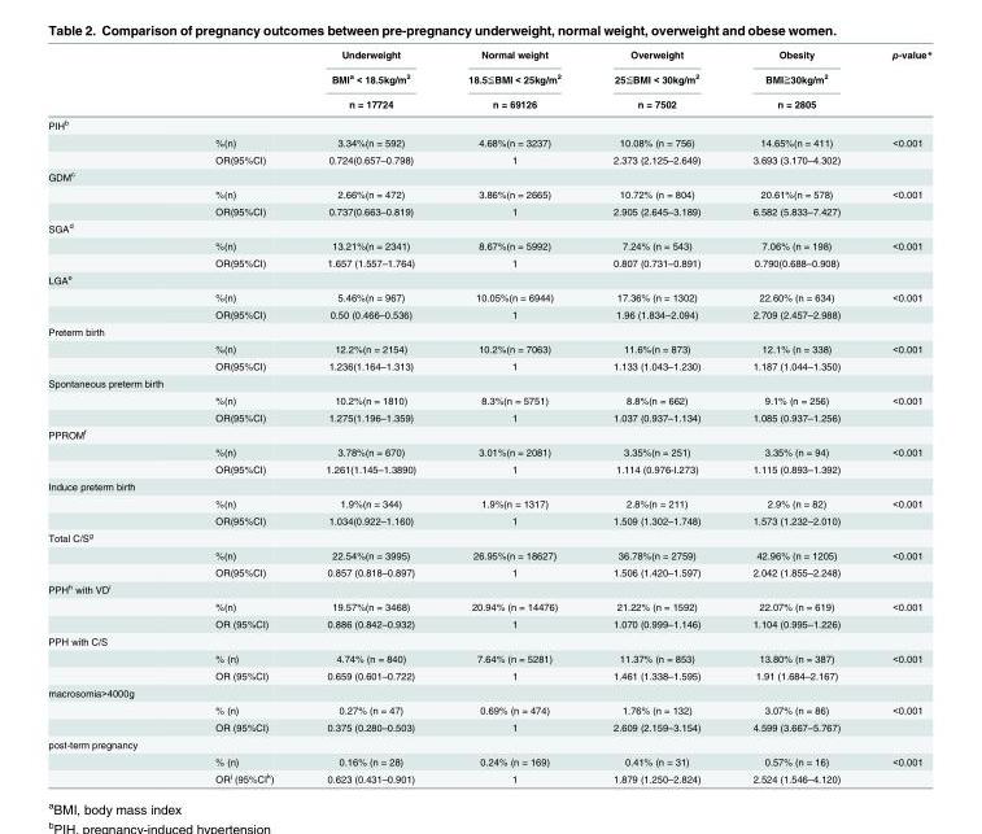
<table><thead><tr><td rowspan="3"></td><td rowspan="3"></td><td rowspan="3">Underweight BMI<sup>a</sup> &lt; 18.5kg/m<sup>2</sup> n = 17724</td><td rowspan="3">Normal weight 18.5≦BMI &lt; 25kg/m<sup>2</sup> n = 69126</td><td rowspan="3">Overweight 25≦BMI &lt; 30kg/m<sup>2</sup> n = 7502</td><td rowspan="3">Obesity BMI≧30kg/m<sup>2</sup> n = 2805</td><td rowspan="3">p-value*</td></tr><tr></tr><tr></tr></thead><tbody><tr><td colspan="7">PIH<sup>b</sup></td></tr><tr><td></td><td>%(n)</td><td>3.34%(n = 592)</td><td>4.68%(n = 3237)</td><td>10.08% (n = 756)</td><td>14.65%(n = 411)</td><td>&lt;0.001</td></tr><tr><td></td><td>OR(95%CI)</td><td>0.724(0.657–0.798)</td><td>1</td><td>2.373 (2.125–2.649)</td><td>3.693 (3.170–4.302)</td><td></td></tr><tr><td colspan="7">GDM<sup>c</sup></td></tr><tr><td></td><td>%(n)</td><td>2.66%(n = 472)</td><td>3.86%(n = 2665)</td><td>10.72% (n = 804)</td><td>20.61%(n = 578)</td><td>&lt;0.001</td></tr><tr><td></td><td>OR(95%CI)</td><td>0.737(0.663–0.819)</td><td>1</td><td>2.905 (2.645–3.189)</td><td>6.582 (5.833–7.427)</td><td></td></tr><tr><td colspan="7">SGA<sup>d</sup></td></tr><tr><td></td><td>%(n)</td><td>13.21%(n = 2341)</td><td>8.67%(n = 5992)</td><td>7.24% (n = 543)</td><td>7.06% (n = 198)</td><td>&lt;0.001</td></tr><tr><td></td><td>OR(95%CI)</td><td>1.657 (1.557–1.764)</td><td>1</td><td>0.807 (0.731–0.891)</td><td>0.790(0.688–0.908)</td><td></td></tr><tr><td colspan="7">LGA<sup>e</sup></td></tr><tr><td></td><td>%(n)</td><td>5.46%(n = 967)</td><td>10.05%(n = 6944)</td><td>17.36% (n = 1302)</td><td>22.60% (n = 634)</td><td>&lt;0.001</td></tr><tr><td></td><td>OR(95%CI)</td><td>0.50 (0.466–0.536)</td><td>1</td><td>1.96 (1.834–2.094)</td><td>2.709 (2.457–2.988)</td><td></td></tr><tr><td colspan="7">Preterm birth</td></tr><tr><td></td><td>%(n)</td><td>12.2%(n = 2154)</td><td>10.2%(n = 7063)</td><td>11.6%(n = 873)</td><td>12.1% (n = 338)</td><td>&lt;0.001</td></tr><tr><td></td><td>OR(95%CI)</td><td>1.236(1.164–1.313)</td><td>1</td><td>1.133 (1.043–1.230)</td><td>1.187 (1.044–1.350)</td><td></td></tr><tr><td colspan="7">Spontaneous preterm birth</td></tr><tr><td></td><td>%(n)</td><td>10.2%(n = 1810)</td><td>8.3%(n = 5751)</td><td>8.8%(n = 662)</td><td>9.1% (n = 256)</td><td>&lt;0.001</td></tr><tr><td></td><td>OR(95%CI)</td><td>1.275(1.196–1.359)</td><td>1</td><td>1.037 (0.937–1.134)</td><td>1.085 (0.937–1.256)</td><td></td></tr><tr><td colspan="7">PPROM<sup>f</sup></td></tr><tr><td></td><td>%(n)</td><td>3.78%(n = 670)</td><td>3.01%(n = 2081)</td><td>3.35%(n = 251)</td><td>3.35% (n = 94)</td><td>&lt;0.001</td></tr><tr><td></td><td>OR(95%CI)</td><td>1.261(1.145–1.3890)</td><td>1</td><td>1.114 (0.976-Ⅰ.273)</td><td>1.115 (0.893–1.392)</td><td></td></tr><tr><td colspan="7">Induce preterm birth</td></tr><tr><td></td><td>%(n)</td><td>1.9%(n = 344)</td><td>1.9%(n = 1317)</td><td>2.8%(n = 211)</td><td>2.9% (n = 82)</td><td>&lt;0.001</td></tr><tr><td></td><td>OR(95%CI)</td><td>1.034(0.922–1.160)</td><td>1</td><td>1.509 (1.302–1.748)</td><td>1.573 (1.232–2.010)</td><td></td></tr><tr><td colspan="7">Total C/S<sup>g</sup></td></tr><tr><td></td><td>%(n)</td><td>22.54%(n = 3995)</td><td>26.95%(n = 18627)</td><td>36.78%(n = 2759)</td><td>42.96% (n = 1205)</td><td>&lt;0.001</td></tr><tr><td></td><td>OR(95%CI)</td><td>0.857 (0.818–0.897)</td><td>1</td><td>1.506 (1.420–1.597)</td><td>2.042 (1.855–2.248)</td><td></td></tr><tr><td colspan="7">PPH<sup>h</sup> with VD<sup>i</sup></td></tr><tr><td></td><td>%(n)</td><td>19.57%(n = 3468)</td><td>20.94% (n = 14476)</td><td>21.22% (n = 1592)</td><td>22.07% (n = 619)</td><td>&lt;0.001</td></tr><tr><td></td><td>OR (95%CI)</td><td>0.886 (0.842–0.932)</td><td>1</td><td>1.070 (0.999–1.146)</td><td>1.104 (0.995–1.226)</td><td></td></tr><tr><td colspan="7">PPH with C/S</td></tr><tr><td></td><td>% (n)</td><td>4.74% (n = 840)</td><td>7.64% (n = 5281)</td><td>11.37% (n = 853)</td><td>13.80% (n = 387)</td><td>&lt;0.001</td></tr><tr><td></td><td>OR (95%CI)</td><td>0.659 (0.601–0.722)</td><td>1</td><td>1.461 (1.338–1.595)</td><td>1.91 (1.684–2.167)</td><td></td></tr><tr><td colspan="7">macrosomia&gt;4000g</td></tr><tr><td></td><td>% (n)</td><td>0.27% (n = 47)</td><td>0.69% (n = 474)</td><td>1.76% (n = 132)</td><td>3.07% (n = 86)</td><td>&lt;0.001</td></tr><tr><td></td><td>OR (95%CI)</td><td>0.375 (0.280–0.503)</td><td>1</td><td>2.609 (2.159–3.154)</td><td>4.599 (3.667–5.767)</td><td></td></tr><tr><td colspan="7">post-term pregnancy</td></tr><tr><td></td><td>% (n)</td><td>0.16% (n = 28)</td><td>0.24% (n = 169)</td><td>0.41% (n = 31)</td><td>0.57% (n = 16)</td><td>&lt;0.001</td></tr><tr><td></td><td>OR<sup>j</sup> (95%CI<sup>k</sup>)</td><td>0.623 (0.431–0.901)</td><td>1</td><td>1.879 (1.250–2.824)</td><td>2.524 (1.546–4.120)</td><td></td></tr></tbody></table>